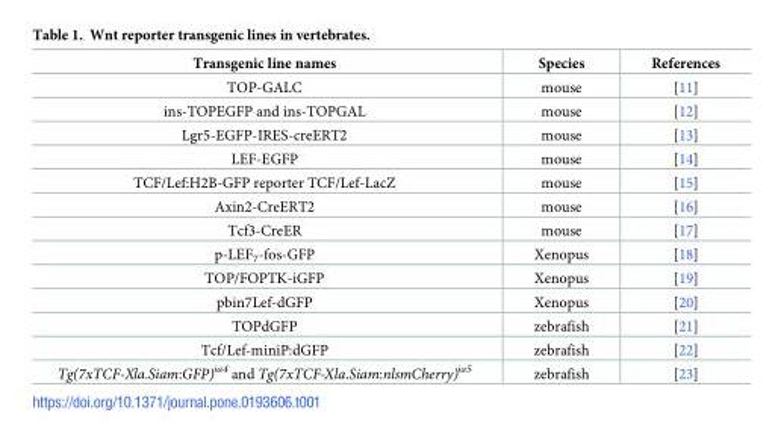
<table><thead><tr><td>Transgenic line names</td><td>Species</td><td>References</td></tr></thead><tbody><tr><td>TOP-GALC</td><td>mouse</td><td>[11]</td></tr><tr><td>ins-TOPEGFP and ins-TOPGAL</td><td>mouse</td><td>[12]</td></tr><tr><td>Lgr5-EGFP-IRES-creERT2</td><td>mouse</td><td>[13]</td></tr><tr><td>LEF-EGFP</td><td>mouse</td><td>[14]</td></tr><tr><td>TCF/Lef:H2B-GFP reporter TCF/Lef-LacZ</td><td>mouse</td><td>[15]</td></tr><tr><td>Axin2-CreERT2</td><td>mouse</td><td>[16]</td></tr><tr><td>Tcf3-CreER</td><td>mouse</td><td>[17]</td></tr><tr><td>p-LEF<sub>7</sub>-fos-GFP</td><td>Xenopus</td><td>[18]</td></tr><tr><td>TOP/FOPTK-iGFP</td><td>Xenopus</td><td>[19]</td></tr><tr><td>pbin7Lef-dGFP</td><td>Xenopus</td><td>[20]</td></tr><tr><td>TOPdGFP</td><td>zebrafish</td><td>[21]</td></tr><tr><td>Tcf/Lef-miniP:dGFP</td><td>zebrafish</td><td>[22]</td></tr><tr><td>Tg(7xTCF-Xla.Siam:GFP)<sup>ia4</sup> and Tg(7xTCF-Xla.Siam:nlsmCherry)<sup>ia5</sup></td><td>zebrafish</td><td>[23]</td></tr></tbody></table>